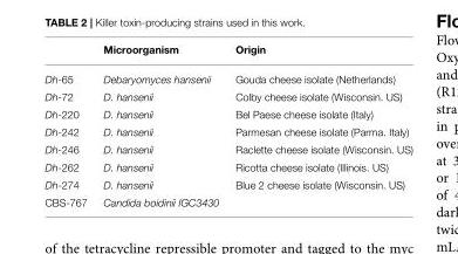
<table><thead><tr><td></td><td>Microorganism</td><td>Origin</td></tr></thead><tbody><tr><td>Dh-65</td><td>Debaryomyces hansenii</td><td>Gouda cheese isolate (Netherlands)</td></tr><tr><td>Dh-72</td><td>D. hansenii</td><td>Colby cheese isolate (Wisconsin. US)</td></tr><tr><td>Dh-220</td><td>D. hansenii</td><td>Bel Paese cheese isolate (Italy)</td></tr><tr><td>Dh-242</td><td>D. hansenii</td><td>Parmesan cheese isolate (Parma. Italy)</td></tr><tr><td>Dh-246</td><td>D. hansenii</td><td>Raclette cheese isolate (Wisconsin. US)</td></tr><tr><td>Dh-262</td><td>D. hansenii</td><td>Ricotta cheese isolate (Illinois. US)</td></tr><tr><td>Dh-274</td><td>D. hansenii</td><td>Blue 2 cheese isolate (Wisconsin. US)</td></tr><tr><td>CBS-767</td><td>Candida boidinii IGC3430</td><td></td></tr></tbody></table>